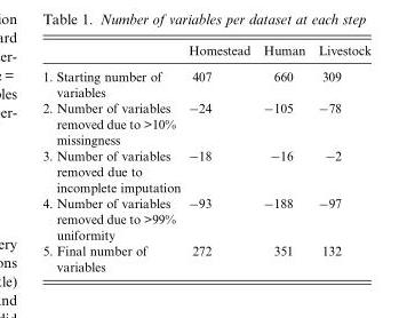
<table><thead><tr><td></td><td>Homestead</td><td>Human</td><td>Livestock</td></tr></thead><tbody><tr><td>1. Starting number of variables</td><td>407</td><td>660</td><td>309</td></tr><tr><td>2. Number of variables removed due to &gt;10% missingness</td><td>−24</td><td>−105</td><td>−78</td></tr><tr><td>3. Number of variables removed due to incomplete imputation</td><td>−18</td><td>−16</td><td>−2</td></tr><tr><td>4. Number of variables removed due to &gt;99% uniformity</td><td>−93</td><td>−188</td><td>−97</td></tr><tr><td>5. Final number of variables</td><td>272</td><td>351</td><td>132</td></tr></tbody></table>